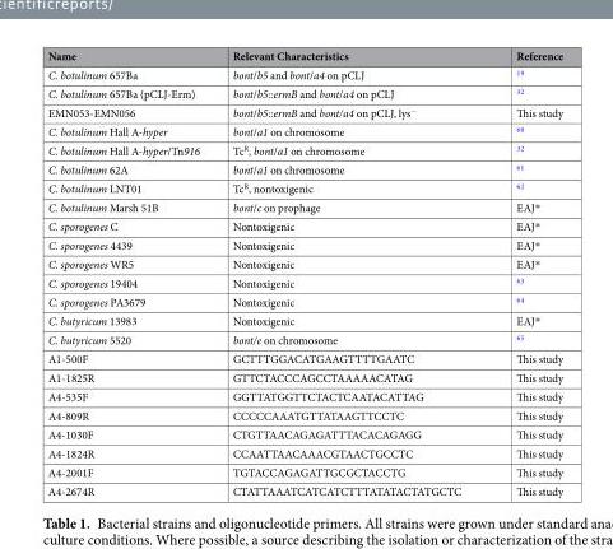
<table><thead><tr><td>Name</td><td>Relevant Characteristics</td><td>Reference</td></tr></thead><tbody><tr><td>C. botulinum 657Ba</td><td>bont/b5 and bont/a4 on pCLJ</td><td><sup>19</sup></td></tr><tr><td>C. botulinum 657Ba (pCLJ-Erm)</td><td>bont/b5::ermB and bont/a4 on pCLJ</td><td><sup>32</sup></td></tr><tr><td>EMN053-EMN056</td><td>bont/b5::ermB and bont/a4 on pCLJ, lys<sup>−</sup></td><td>This study</td></tr><tr><td>C. botulinum Hall A-hyper</td><td>bont/a1 on chromosome</td><td><sup>60</sup></td></tr><tr><td>C. botulinum Hall A-hyper/Tn916</td><td>Tc<sup>R</sup>, bont/a1 on chromosome</td><td><sup>32</sup></td></tr><tr><td>C. botulinum 62A</td><td>bont/a1 on chromosome</td><td><sup>61</sup></td></tr><tr><td>C. botulinum LNT01</td><td>Tc<sup>R</sup>, nontoxigenic</td><td><sup>62</sup></td></tr><tr><td>C. botulinum Marsh 51B</td><td>bont/c on prophage</td><td>EAJ*</td></tr><tr><td>C. sporogenes C</td><td>Nontoxigenic</td><td>EAJ*</td></tr><tr><td>C. sporogenes 4439</td><td>Nontoxigenic</td><td>EAJ*</td></tr><tr><td>C. sporogenes WR5</td><td>Nontoxigenic</td><td>EAJ*</td></tr><tr><td>C. sporogenes 19404</td><td>Nontoxigenic</td><td><sup>63</sup></td></tr><tr><td>C. sporogenes PA3679</td><td>Nontoxigenic</td><td><sup>64</sup></td></tr><tr><td>C. butyricum 13983</td><td>Nontoxigenic</td><td>EAJ*</td></tr><tr><td>C. butyricum 5520</td><td>bont/e on chromosome</td><td><sup>65</sup></td></tr><tr><td>A1-500F</td><td>GCTTTGGACATGAAGTTTTGAATC</td><td>This study</td></tr><tr><td>A1-1825R</td><td>GTTCTACCCAGCCTAAAAACATAG</td><td>This study</td></tr><tr><td>A4-535F</td><td>GGTTATGGTTCTACTCAATACATTAG</td><td>This study</td></tr><tr><td>A4-809R</td><td>CCCCCAAATGTTATAAGTTCCTC</td><td>This study</td></tr><tr><td>A4-1030F</td><td>CTGTTAACAGAGATTTACACAGAGG</td><td>This study</td></tr><tr><td>A4-1824R</td><td>CCAATTAACAAACGTAACTGCCTC</td><td>This study</td></tr><tr><td>A4-2001F</td><td>TGTACCAGAGATTGCGCTACCTG</td><td>This study</td></tr><tr><td>A4-2674R</td><td>CTATTAAATCATCATCTTTATATACTATGCTC</td><td>This study</td></tr></tbody></table>